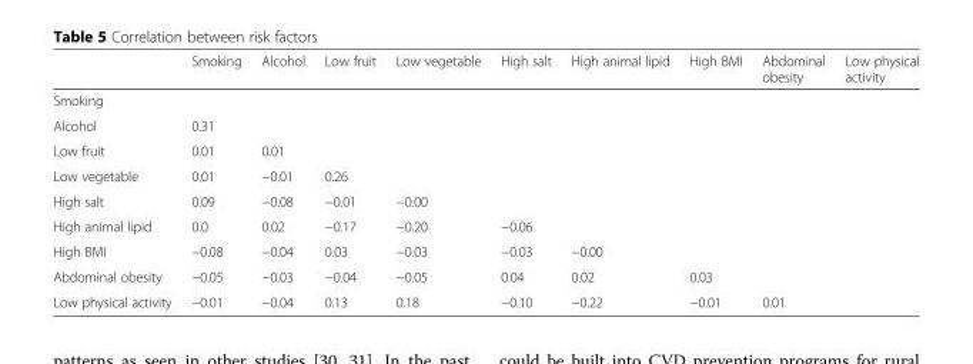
<table><thead><tr><td></td><td>Smoking</td><td>Alcohol</td><td>Low fruit</td><td>Low vegetable</td><td>High salt</td><td>High animal lipid</td><td>High BMI</td><td>Abdominal obesity</td><td>Low physical activity</td></tr></thead><tbody><tr><td colspan="10">Smoking</td></tr><tr><td>Alcohol</td><td>0.31</td><td></td><td></td><td></td><td></td><td></td><td></td><td></td><td></td></tr><tr><td>Low fruit</td><td>0.01</td><td>0.01</td><td></td><td></td><td></td><td></td><td></td><td></td><td></td></tr><tr><td>Low vegetable</td><td>0.01</td><td>−0.01</td><td>0.26</td><td></td><td></td><td></td><td></td><td></td><td></td></tr><tr><td>High salt</td><td>0.09</td><td>−0.08</td><td>−0.01</td><td>−0.00</td><td></td><td></td><td></td><td></td><td></td></tr><tr><td>High animal lipid</td><td>0.0</td><td>0.02</td><td>−0.17</td><td>−0.20</td><td>−0.06</td><td></td><td></td><td></td><td></td></tr><tr><td>High BMI</td><td>−0.08</td><td>−0.04</td><td>0.03</td><td>−0.03</td><td>−0.03</td><td>−0.00</td><td></td><td></td><td></td></tr><tr><td>Abdominal obesity</td><td>−0.05</td><td>−0.03</td><td>−0.04</td><td>−0.05</td><td>0.04</td><td>0.02</td><td>0.03</td><td></td><td></td></tr><tr><td>Low physical activity</td><td>−0.01</td><td>−0.04</td><td>0.13</td><td>0.18</td><td>−0.10</td><td>−0.22</td><td>−0.01</td><td>0.01</td><td></td></tr></tbody></table>